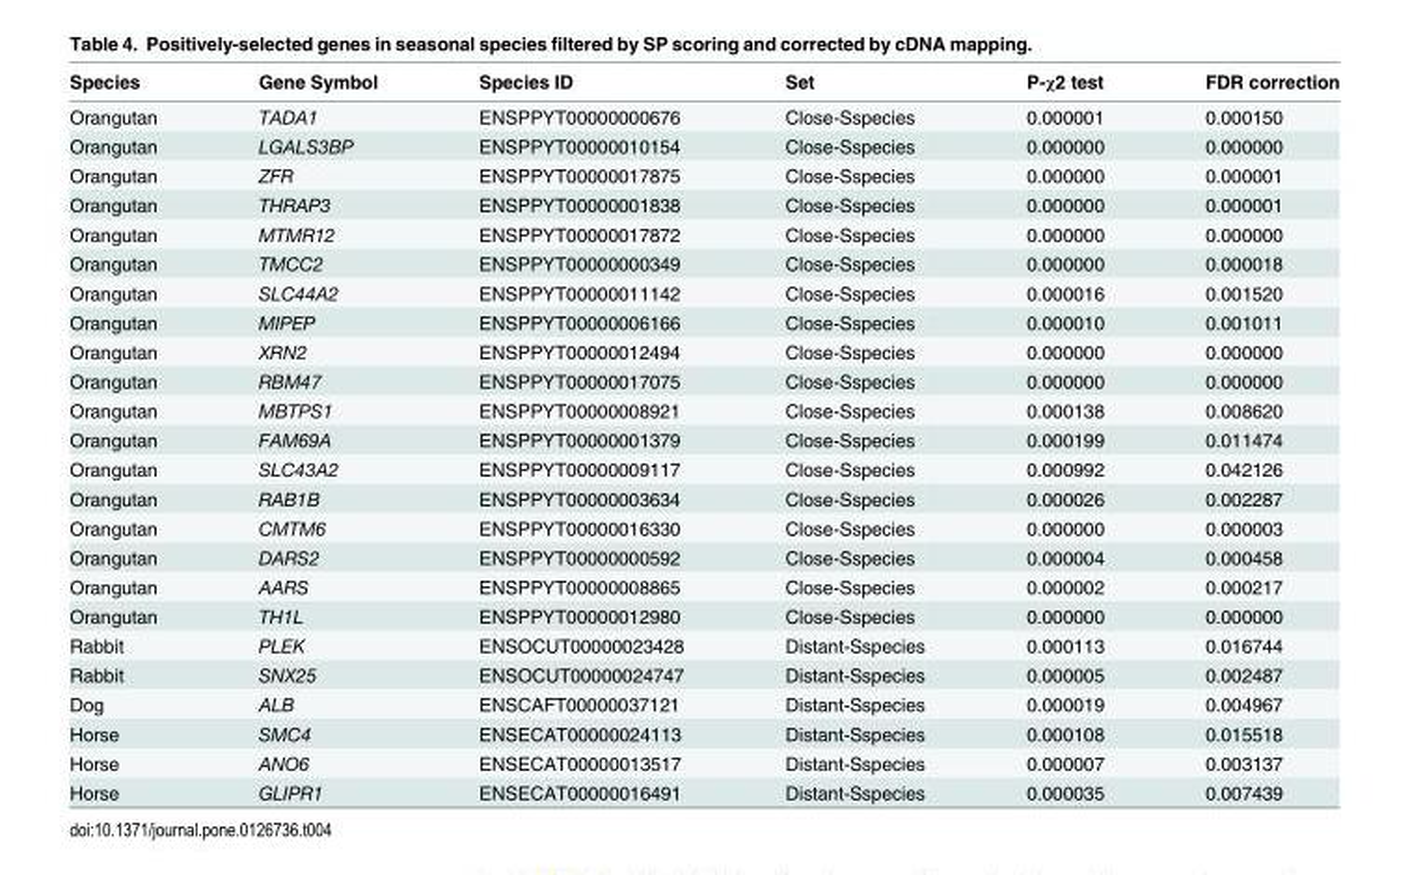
<table><thead><tr><td>Species</td><td>Gene Symbol</td><td>Species ID</td><td>Set</td><td>P-χ2 test</td><td>FDR correction</td></tr></thead><tbody><tr><td>Orangutan</td><td>TADA1</td><td>ENSPPYT00000000676</td><td>Close-Sspecies</td><td>0.000001</td><td>0.000150</td></tr><tr><td>Orangutan</td><td>LGALS3BP</td><td>ENSPPYT00000010154</td><td>Close-Sspecies</td><td>0.000000</td><td>0.000000</td></tr><tr><td>Orangutan</td><td>ZFR</td><td>ENSPPYT00000017875</td><td>Close-Sspecies</td><td>0.000000</td><td>0.000001</td></tr><tr><td>Orangutan</td><td>THRAP3</td><td>ENSPPYT00000001838</td><td>Close-Sspecies</td><td>0.000000</td><td>0.000001</td></tr><tr><td>Orangutan</td><td>MTMR12</td><td>ENSPPYT00000017872</td><td>Close-Sspecies</td><td>0.000000</td><td>0.000000</td></tr><tr><td>Orangutan</td><td>TMCC2</td><td>ENSPPYT00000000349</td><td>Close-Sspecies</td><td>0.000000</td><td>0.000018</td></tr><tr><td>Orangutan</td><td>SLC44A2</td><td>ENSPPYT00000011142</td><td>Close-Sspecies</td><td>0.000016</td><td>0.001520</td></tr><tr><td>Orangutan</td><td>MIPEP</td><td>ENSPPYT00000006166</td><td>Close-Sspecies</td><td>0.000010</td><td>0.001011</td></tr><tr><td>Orangutan</td><td>XRN2</td><td>ENSPPYT00000012494</td><td>Close-Sspecies</td><td>0.000000</td><td>0.000000</td></tr><tr><td>Orangutan</td><td>RBM47</td><td>ENSPPYT00000017075</td><td>Close-Sspecies</td><td>0.000000</td><td>0.000000</td></tr><tr><td>Orangutan</td><td>MBTPS1</td><td>ENSPPYT00000008921</td><td>Close-Sspecies</td><td>0.000138</td><td>0.008620</td></tr><tr><td>Orangutan</td><td>FAM69A</td><td>ENSPPYT00000001379</td><td>Close-Sspecies</td><td>0.000199</td><td>0.011474</td></tr><tr><td>Orangutan</td><td>SLC43A2</td><td>ENSPPYT00000009117</td><td>Close-Sspecies</td><td>0.000992</td><td>0.042126</td></tr><tr><td>Orangutan</td><td>RAB1B</td><td>ENSPPYT00000003634</td><td>Close-Sspecies</td><td>0.000026</td><td>0.002287</td></tr><tr><td>Orangutan</td><td>CMTM6</td><td>ENSPPYT00000016330</td><td>Close-Sspecies</td><td>0.000000</td><td>0.000003</td></tr><tr><td>Orangutan</td><td>DARS2</td><td>ENSPPYT00000000592</td><td>Close-Sspecies</td><td>0.000004</td><td>0.000458</td></tr><tr><td>Orangutan</td><td>AARS</td><td>ENSPPYT00000008865</td><td>Close-Sspecies</td><td>0.000002</td><td>0.000217</td></tr><tr><td>Orangutan</td><td>TH1L</td><td>ENSPPYT00000012980</td><td>Close-Sspecies</td><td>0.000000</td><td>0.000000</td></tr><tr><td>Rabbit</td><td>PLEK</td><td>ENSOCUT00000023428</td><td>Distant-Sspecies</td><td>0.000113</td><td>0.016744</td></tr><tr><td>Rabbit</td><td>SNX25</td><td>ENSOCUT00000024747</td><td>Distant-Sspecies</td><td>0.000005</td><td>0.002487</td></tr><tr><td>Dog</td><td>ALB</td><td>ENSCAFT00000037121</td><td>Distant-Sspecies</td><td>0.000019</td><td>0.004967</td></tr><tr><td>Horse</td><td>SMC4</td><td>ENSECAT00000024113</td><td>Distant-Sspecies</td><td>0.000108</td><td>0.015518</td></tr><tr><td>Horse</td><td>ANO6</td><td>ENSECAT00000013517</td><td>Distant-Sspecies</td><td>0.000007</td><td>0.003137</td></tr><tr><td>Horse</td><td>GLIPR1</td><td>ENSECAT00000016491</td><td>Distant-Sspecies</td><td>0.000035</td><td>0.007439</td></tr></tbody></table>